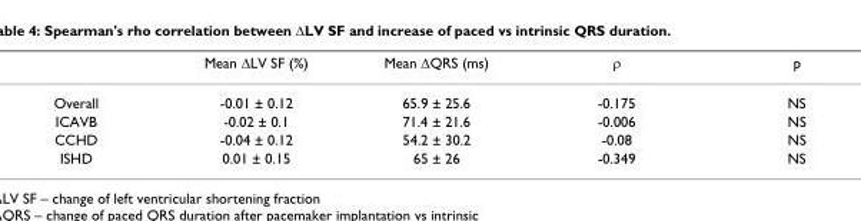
<table><thead><tr><td></td><td>Mean ∆LV SF (%)</td><td>Mean ∆QRS (ms)</td><td>ρ</td><td>p</td></tr></thead><tbody><tr><td>Overall</td><td>-0.01 ± 0.12</td><td>65.9 ± 25.6</td><td>-0.175</td><td>NS</td></tr><tr><td>ICAVB</td><td>-0.02 ± 0.1</td><td>71.4 ± 21.6</td><td>-0.006</td><td>NS</td></tr><tr><td>CCHD</td><td>-0.04 ± 0.12</td><td>54.2 ± 30.2</td><td>-0.08</td><td>NS</td></tr><tr><td>ISHD</td><td>0.01 ± 0.15</td><td>65 ± 26</td><td>-0.349</td><td>NS</td></tr></tbody></table>